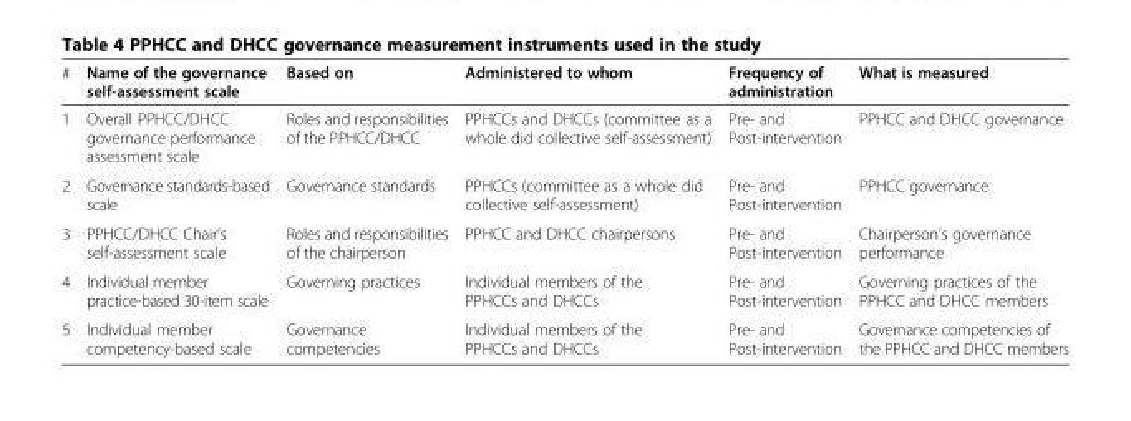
<table><thead><tr><td>#</td><td>Name of the governance self-assessment scale</td><td>Based on</td><td>Administered to whom</td><td>Frequency of administration</td><td>What is measured</td></tr></thead><tbody><tr><td>1</td><td>Overall PPHCC/DHCC governance performance assessment scale</td><td>Roles and responsibilities of the PPHCC/DHCC</td><td>PPHCCs and DHCCs (committee as a whole did collective self-assessment)</td><td>Pre- and Post-intervention</td><td>PPHCC and DHCC governance</td></tr><tr><td>2</td><td>Governance standards-based scale</td><td>Governance standards</td><td>PPHCCs (committee as a whole did collective self-assessment)</td><td>Pre- and Post-intervention</td><td>PPHCC governance</td></tr><tr><td>3</td><td>PPHCC/DHCC Chair’s self-assessment scale</td><td>Roles and responsibilities of the chairperson</td><td>PPHCC and DHCC chairpersons</td><td>Pre- and Post-intervention</td><td>Chairperson’s governance performance</td></tr><tr><td>4</td><td>Individual member practice-based 30-item scale</td><td>Governing practices</td><td>Individual members of the PPHCCs and DHCCs</td><td>Pre- and Post-intervention</td><td>Governing practices of the PPHCC and DHCC members</td></tr><tr><td>5</td><td>Individual member competency-based scale</td><td>Governance competencies</td><td>Individual members of the PPHCCs and DHCCs</td><td>Pre- and Post-intervention</td><td>Governance competencies of the PPHCC and DHCC members</td></tr></tbody></table>